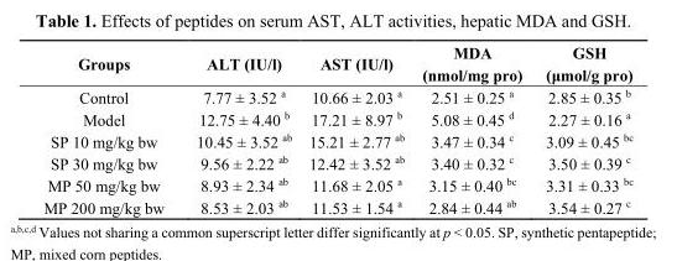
<table><thead><tr><td>Groups</td><td>ALT (IU/l)</td><td>AST (IU/l)</td><td>MDA (nmol/mg pro)</td><td>GSH (μmol/g pro)</td></tr></thead><tbody><tr><td>Control</td><td>7.77 ± 3.52 <sup>a</sup></td><td>10.66 ± 2.03 <sup>a</sup></td><td>2.51 ± 0.25 <sup>a</sup></td><td>2.85 ± 0.35 <sup>b</sup></td></tr><tr><td>Model</td><td>12.75 ± 4.40 <sup>b</sup></td><td>17.21 ± 8.97 <sup>b</sup></td><td>5.08 ± 0.45 <sup>d</sup></td><td>2.27 ± 0.16 <sup>a</sup></td></tr><tr><td>SP 10 mg/kg bw</td><td>10.45 ± 3.52 <sup>ab</sup></td><td>15.21 ± 2.77 <sup>ab</sup></td><td>3.47 ± 0.34 <sup>c</sup></td><td>3.09 ± 0.45 <sup>bc</sup></td></tr><tr><td>SP 30 mg/kg bw</td><td>9.56 ± 2.22 <sup>ab</sup></td><td>12.42 ± 3.52 <sup>ab</sup></td><td>3.40 ± 0.32 <sup>c</sup></td><td>3.50 ± 0.39 <sup>c</sup></td></tr><tr><td>MP 50 mg/kg bw</td><td>8.93 ± 2.34 <sup>ab</sup></td><td>11.68 ± 2.05 <sup>a</sup></td><td>3.15 ± 0.40 <sup>bc</sup></td><td>3.31 ± 0.33 <sup>bc</sup></td></tr><tr><td>MP 200 mg/kg bw</td><td>8.53 ± 2.03 <sup>ab</sup></td><td>11.53 ± 1.54 <sup>a</sup></td><td>2.84 ± 0.44 <sup>ab</sup></td><td>3.54 ± 0.27 <sup>c</sup></td></tr></tbody></table>